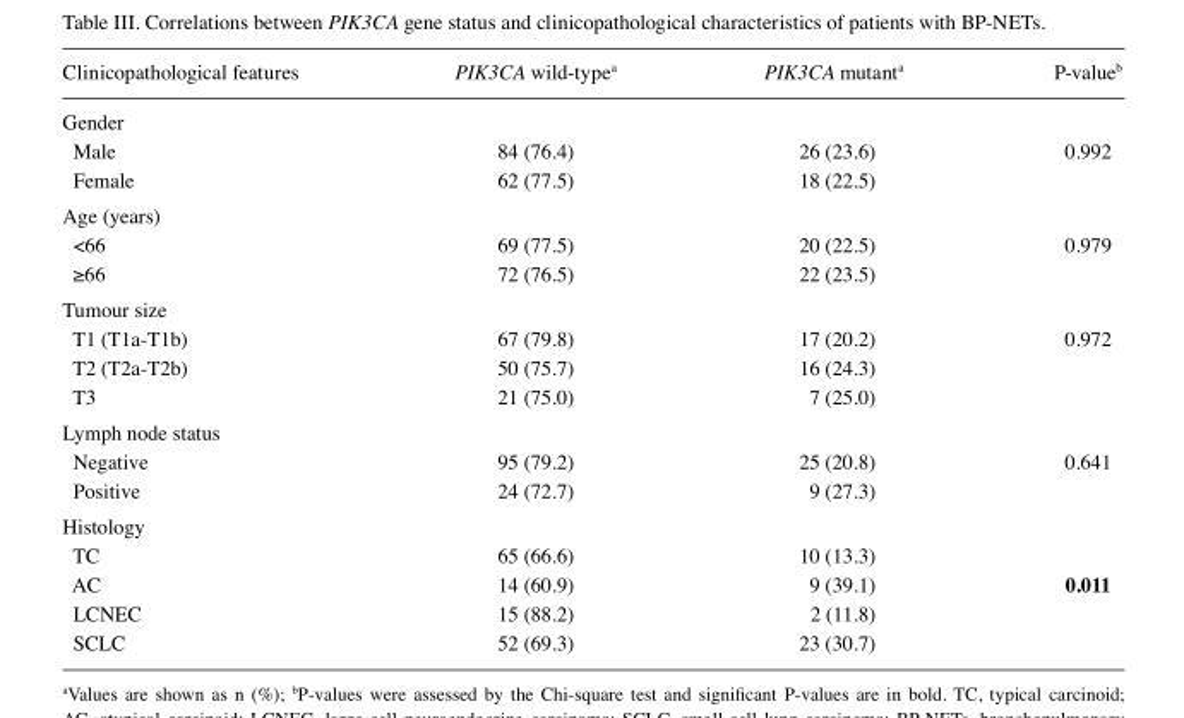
<table><thead><tr><td>Clinicopathological features</td><td>PIK3CA wild-type<sup>a</sup></td><td>PIK3CA mutant<sup>a</sup></td><td>P-value<sup>b</sup></td></tr></thead><tbody><tr><td colspan="4">Gender</td></tr><tr><td>Male</td><td>84 (76.4)</td><td>26 (23.6)</td><td>0.992</td></tr><tr><td>Female</td><td>62 (77.5)</td><td>18 (22.5)</td><td></td></tr><tr><td colspan="4">Age (years)</td></tr><tr><td>&lt;66</td><td>69 (77.5)</td><td>20 (22.5)</td><td>0.979</td></tr><tr><td>≥66</td><td>72 (76.5)</td><td>22 (23.5)</td><td></td></tr><tr><td colspan="4">Tumour size</td></tr><tr><td>T1 (T1a-T1b)</td><td>67 (79.8)</td><td>17 (20.2)</td><td>0.972</td></tr><tr><td>T2 (T2a-T2b)</td><td>50 (75.7)</td><td>16 (24.3)</td><td></td></tr><tr><td>T3</td><td>21 (75.0)</td><td>7 (25.0)</td><td></td></tr><tr><td colspan="4">Lymph node status</td></tr><tr><td>Negative</td><td>95 (79.2)</td><td>25 (20.8)</td><td>0.641</td></tr><tr><td>Positive</td><td>24 (72.7)</td><td>9 (27.3)</td><td></td></tr><tr><td colspan="4">Histology</td></tr><tr><td>TC</td><td>65 (66.6)</td><td>10 (13.3)</td><td></td></tr><tr><td>AC</td><td>14 (60.9)</td><td>9 (39.1)</td><td>0.011</td></tr><tr><td>LCNEC</td><td>15 (88.2)</td><td>2 (11.8)</td><td></td></tr><tr><td>SCLC</td><td>52 (69.3)</td><td>23 (30.7)</td><td></td></tr></tbody></table>